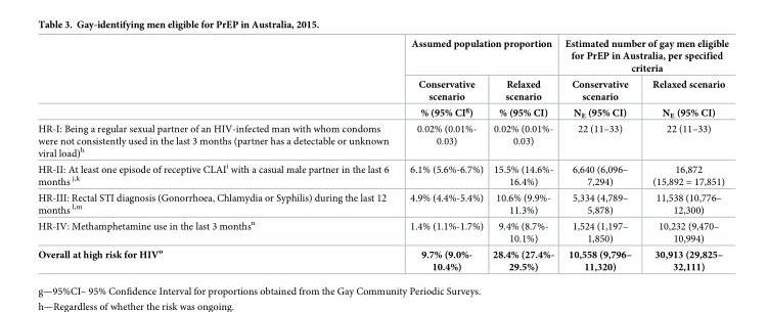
<table><thead><tr><td rowspan="3"></td><td colspan="2">Assumed population proportion</td><td colspan="2">Estimated number of gay men eligible for PrEP in Australia, per specified criteria</td></tr><tr><td rowspan="2">Conservative scenario % (95% CI<sup>g</sup>)</td><td rowspan="2">Relaxed scenario % (95% CI)</td><td rowspan="2">Conservative scenario N<sub>E</sub> (95% CI)</td><td rowspan="2">Relaxed scenario N<sub>E</sub> (95% CI)</td></tr><tr></tr></thead><tbody><tr><td>HR-I: Being a regular sexual partner of an HIV-infected man with whom condoms were not consistently used in the last 3 months (partner has a detectable or unknown viral load)<sup>h</sup></td><td>0.02% (0.01%- 0.03)</td><td>0.02% (0.01%- 0.03)</td><td>22 (11–33)</td><td>22 (11–33)</td></tr><tr><td>HR-II: At least one episode of receptive CLAI<sup>i</sup> with a casual male partner in the last 6 months <sup>j,k</sup></td><td>6.1% (5.6%-6.7%)</td><td>15.5% (14.6%- 16.4%)</td><td>6,640 (6,096– 7,294)</td><td>16,872 (15,892 = 17,851)</td></tr><tr><td>HR-III: Rectal STI diagnosis (Gonorrhoea, Chlamydia or Syphilis) during the last 12 months <sup>l,m</sup></td><td>4.9% (4.4%-5.4%)</td><td>10.6% (9.9%- 11.3%)</td><td>5,334 (4,789– 5,878)</td><td>11,538 (10,776– 12,300)</td></tr><tr><td>HR-IV: Methamphetamine use in the last 3 months<sup>n</sup></td><td>1.4% (1.1%-1.7%)</td><td>9.4% (8.7%- 10.1%)</td><td>1,524 (1,197– 1,850)</td><td>10,232 (9,470– 10,994)</td></tr><tr><td>Overall at high risk for HIV<sup>o</sup></td><td>9.7% (9.0%- 10.4%)</td><td>28.4% (27.4%- 29.5%)</td><td>10,558 (9,796– 11,320)</td><td>30,913 (29,825– 32,111)</td></tr></tbody></table>